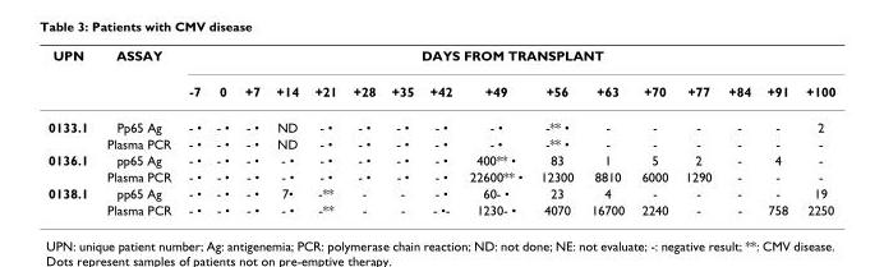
<table><thead><tr><td rowspan="2">UPN</td><td rowspan="2">ASSAY</td><td colspan="16">DAYS FROM TRANSPLANT</td></tr><tr><td>-7</td><td>0</td><td>+7</td><td>+14</td><td>+21</td><td>+28</td><td>+35</td><td>+42</td><td>+49</td><td>+56</td><td>+63</td><td>+70</td><td>+77</td><td>+84</td><td>+91</td><td>+100</td></tr></thead><tbody><tr><td rowspan="2">0133.1</td><td>Pp65 Ag</td><td>- •</td><td>- •</td><td>- •</td><td>ND</td><td>- •</td><td>- •</td><td>- •</td><td>- •</td><td>- •</td><td>-** •</td><td>-</td><td>-</td><td>-</td><td>-</td><td>-</td><td>2</td></tr><tr><td>Plasma PCR</td><td>- •</td><td>- •</td><td>- •</td><td>ND</td><td>- •</td><td>- •</td><td>- •</td><td>- •</td><td>- •</td><td>-** •</td><td>-</td><td>-</td><td>-</td><td>-</td><td>-</td><td>-</td></tr><tr><td rowspan="2">0136.1</td><td>pp65 Ag</td><td>- •</td><td>- •</td><td>- •</td><td>- •</td><td>- •</td><td>- •</td><td>- •</td><td>- •</td><td>400** •</td><td>83</td><td>1</td><td>5</td><td>2</td><td>-</td><td>4</td><td>-</td></tr><tr><td>Plasma PCR</td><td>- •</td><td>- •</td><td>- •</td><td>- •</td><td>- •</td><td>- •</td><td>- •</td><td>- •</td><td>22600** •</td><td>12300</td><td>8810</td><td>6000</td><td>1290</td><td>-</td><td>-</td><td>-</td></tr><tr><td rowspan="2">0138.1</td><td>pp65 Ag</td><td>- •</td><td>- •</td><td>- •</td><td>7•</td><td>-**</td><td>-</td><td>-</td><td>- •</td><td>60- •</td><td>23</td><td>4</td><td>-</td><td>-</td><td>-</td><td>-</td><td>19</td></tr><tr><td>Plasma PCR</td><td>- •</td><td>- •</td><td>- •</td><td>- •</td><td>-**</td><td>-</td><td>-</td><td>- •-</td><td>1230- •</td><td>4070</td><td>16700</td><td>2240</td><td>-</td><td>-</td><td>758</td><td>2250</td></tr></tbody></table>